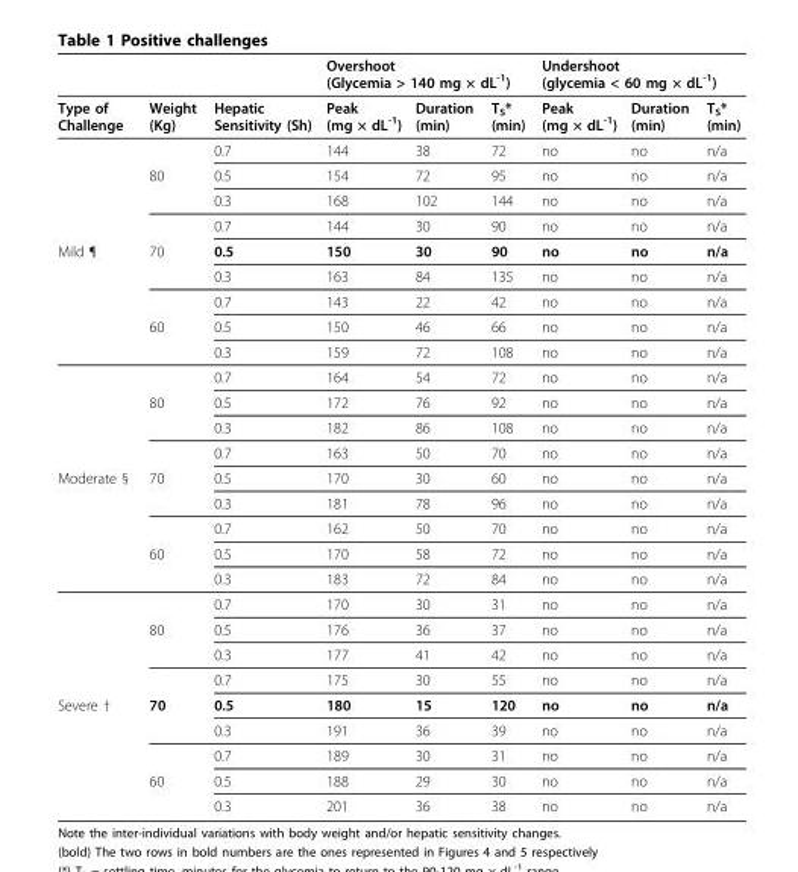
<table><thead><tr><td rowspan="2">Type of Challenge</td><td rowspan="2">Weight (Kg)</td><td rowspan="2">Hepatic Sensitivity (Sh)</td><td colspan="3">Overshoot (Glycemia &gt; 140 mg × dL<sup>-1</sup>)</td><td colspan="3">Undershoot (glycemia &lt; 60 mg × dL<sup>-1</sup>)</td></tr><tr><td>Peak (mg × dL<sup>-1</sup>)</td><td>Duration (min)</td><td>T<sub>S</sub>* (min)</td><td>Peak (mg × dL<sup>-1</sup>)</td><td>Duration (min)</td><td>T<sub>S</sub>* (min)</td></tr></thead><tbody><tr><td></td><td></td><td>0.7</td><td>144</td><td>38</td><td>72</td><td>no</td><td>no</td><td>n/a</td></tr><tr><td></td><td>80</td><td>0.5</td><td>154</td><td>72</td><td>95</td><td>no</td><td>no</td><td>n/a</td></tr><tr><td></td><td></td><td>0.3</td><td>168</td><td>102</td><td>144</td><td>no</td><td>no</td><td>n/a</td></tr><tr><td></td><td></td><td>0.7</td><td>144</td><td>30</td><td>90</td><td>no</td><td>no</td><td>n/a</td></tr><tr><td rowspan="9">Mild ¶</td><td>70</td><td>0.5</td><td>150</td><td>30</td><td>90</td><td>no</td><td>no</td><td>n/a</td></tr><tr><td></td><td>0.3</td><td>163</td><td>84</td><td>135</td><td>no</td><td>no</td><td>n/a</td></tr><tr><td></td><td>0.7</td><td>143</td><td>22</td><td>42</td><td>no</td><td>no</td><td>n/a</td></tr><tr><td>60</td><td>0.5</td><td>150</td><td>46</td><td>66</td><td>no</td><td>no</td><td>n/a</td></tr><tr><td></td><td>0.3</td><td>159</td><td>72</td><td>108</td><td>no</td><td>no</td><td>n/a</td></tr><tr><td></td><td>0.7</td><td>164</td><td>54</td><td>72</td><td>no</td><td>no</td><td>n/a</td></tr><tr><td>80</td><td>0.5</td><td>172</td><td>76</td><td>92</td><td>no</td><td>no</td><td>n/a</td></tr><tr><td></td><td>0.3</td><td>182</td><td>86</td><td>108</td><td>no</td><td>no</td><td>n/a</td></tr><tr><td></td><td>0.7</td><td>163</td><td>50</td><td>70</td><td>no</td><td>no</td><td>n/a</td></tr><tr><td rowspan="9">Moderate §</td><td>70</td><td>0.5</td><td>170</td><td>30</td><td>60</td><td>no</td><td>no</td><td>n/a</td></tr><tr><td></td><td>0.3</td><td>181</td><td>78</td><td>96</td><td>no</td><td>no</td><td>n/a</td></tr><tr><td></td><td>0.7</td><td>162</td><td>50</td><td>70</td><td>no</td><td>no</td><td>n/a</td></tr><tr><td>60</td><td>0.5</td><td>170</td><td>58</td><td>72</td><td>no</td><td>no</td><td>n/a</td></tr><tr><td></td><td>0.3</td><td>183</td><td>72</td><td>84</td><td>no</td><td>no</td><td>n/a</td></tr><tr><td></td><td>0.7</td><td>170</td><td>30</td><td>31</td><td>no</td><td>no</td><td>n/a</td></tr><tr><td>80</td><td>0.5</td><td>176</td><td>36</td><td>37</td><td>no</td><td>no</td><td>n/a</td></tr><tr><td></td><td>0.3</td><td>177</td><td>41</td><td>42</td><td>no</td><td>no</td><td>n/a</td></tr><tr><td></td><td>0.7</td><td>175</td><td>30</td><td>55</td><td>no</td><td>no</td><td>n/a</td></tr><tr><td rowspan="5">Severe †</td><td>70</td><td>0.5</td><td>180</td><td>15</td><td>120</td><td>no</td><td>no</td><td>n/a</td></tr><tr><td></td><td>0.3</td><td>191</td><td>36</td><td>39</td><td>no</td><td>no</td><td>n/a</td></tr><tr><td></td><td>0.7</td><td>189</td><td>30</td><td>31</td><td>no</td><td>no</td><td>n/a</td></tr><tr><td>60</td><td>0.5</td><td>188</td><td>29</td><td>30</td><td>no</td><td>no</td><td>n/a</td></tr><tr><td></td><td>0.3</td><td>201</td><td>36</td><td>38</td><td>no</td><td>no</td><td>n/a</td></tr></tbody></table>